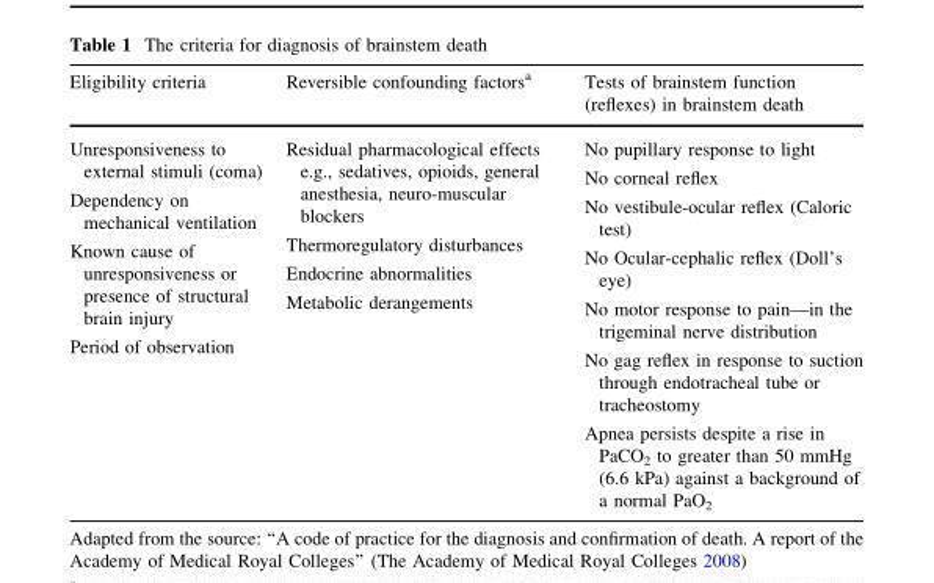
<table><thead><tr><td>Eligibility criteria</td><td>Reversible confounding factors<sup>a</sup></td><td>Tests of brainstem function (reflexes) in brainstem death</td></tr></thead><tbody><tr><td>Unresponsiveness to external stimuli (coma) Dependency on mechanical ventilation Known cause of unresponsiveness or presence of structural brain injury Period of observation</td><td>Residual pharmacological effects e.g., sedatives, opioids, general anesthesia, neuro-muscular blockers Thermoregulatory disturbances Endocrine abnormalities Metabolic derangements</td><td>No pupillary response to light No corneal reflex No vestibule-ocular reflex (Caloric test) No Ocular-cephalic reflex (Doll’s eye) No motor response to pain—in the trigeminal nerve distribution No gag reflex in response to suction through endotracheal tube or tracheostomy Apnea persists despite a rise in PaCO<sub>2</sub> to greater than 50 mmHg (6.6 kPa) against a background of a normal PaO<sub>2</sub></td></tr></tbody></table>